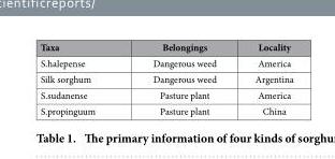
<table><thead><tr><td>Taxa</td><td>Belongings</td><td>Locality</td></tr></thead><tbody><tr><td>S.halepense</td><td>Dangerous weed</td><td>America</td></tr><tr><td>Silk sorghum</td><td>Dangerous weed</td><td>Argentina</td></tr><tr><td>S.sudanense</td><td>Pasture plant</td><td>America</td></tr><tr><td>S.propinguum</td><td>Pasture plant</td><td>China</td></tr></tbody></table>